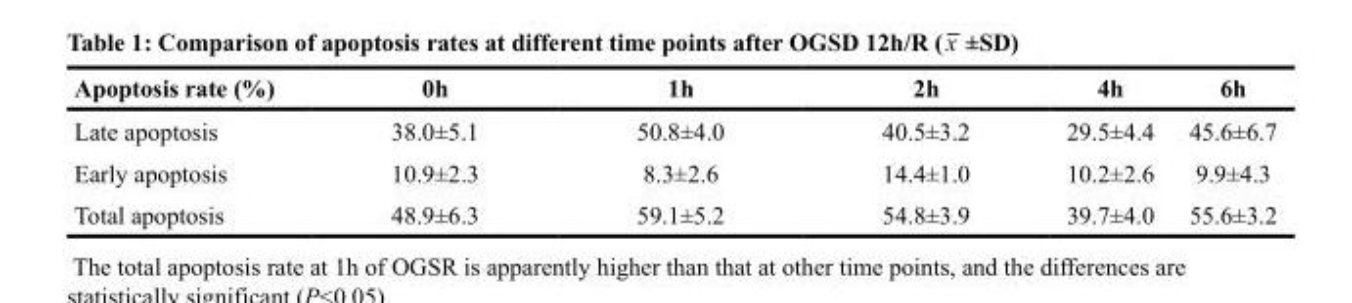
<table><thead><tr><td>Apoptosis rate (%)</td><td>0h</td><td>1h</td><td>2h</td><td>4h</td><td>6h</td></tr></thead><tbody><tr><td>Late apoptosis</td><td>38.0±5.1</td><td>50.8±4.0</td><td>40.5±3.2</td><td>29.5±4.4</td><td>45.6±6.7</td></tr><tr><td>Early apoptosis</td><td>10.9±2.3</td><td>8.3±2.6</td><td>14.4±1.0</td><td>10.2±2.6</td><td>9.9±4.3</td></tr><tr><td>Total apoptosis</td><td>48.9±6.3</td><td>59.1±5.2</td><td>54.8±3.9</td><td>39.7±4.0</td><td>55.6±3.2</td></tr></tbody></table>